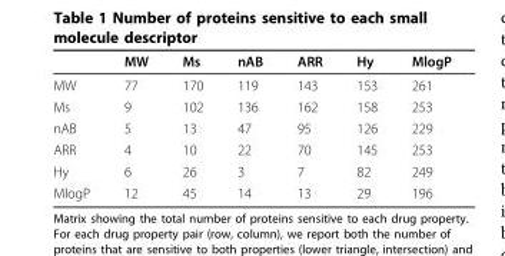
<table><thead><tr><td></td><td>MW</td><td>Ms</td><td>nAB</td><td>ARR</td><td>Hy</td><td>MlogP</td></tr></thead><tbody><tr><td>MW</td><td>77</td><td>170</td><td>119</td><td>143</td><td>153</td><td>261</td></tr><tr><td>Ms</td><td>9</td><td>102</td><td>136</td><td>162</td><td>158</td><td>253</td></tr><tr><td>nAB</td><td>5</td><td>13</td><td>47</td><td>95</td><td>126</td><td>229</td></tr><tr><td>ARR</td><td>4</td><td>10</td><td>22</td><td>70</td><td>145</td><td>253</td></tr><tr><td>Hy</td><td>6</td><td>26</td><td>3</td><td>7</td><td>82</td><td>249</td></tr><tr><td>MlogP</td><td>12</td><td>45</td><td>14</td><td>13</td><td>29</td><td>196</td></tr></tbody></table>